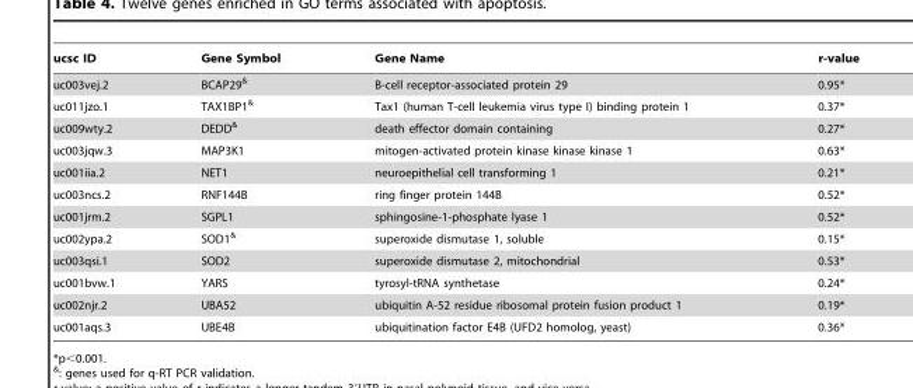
<table><thead><tr><td>ucsc ID</td><td>Gene Symbol</td><td>Gene Name</td><td>r-value</td></tr></thead><tbody><tr><td>uc003vej.2</td><td>BCAP29&amp;</td><td>B-cell receptor-associated protein 29</td><td>0.95*</td></tr><tr><td>uc011jzo.1</td><td>TAX1BP1&amp;</td><td>Tax1 (human T-cell leukemia virus type I) binding protein 1</td><td>0.37*</td></tr><tr><td>uc009wty.2</td><td>DEDD&amp;</td><td>death effector domain containing</td><td>0.27*</td></tr><tr><td>uc003jqw.3</td><td>MAP3K1</td><td>mitogen-activated protein kinase kinase kinase 1</td><td>0.63*</td></tr><tr><td>uc001iia.2</td><td>NET1</td><td>neuroepithelial cell transforming 1</td><td>0.21*</td></tr><tr><td>uc003ncs.2</td><td>RNF144B</td><td>ring finger protein 144B</td><td>0.52*</td></tr><tr><td>uc001jrm.2</td><td>SGPL1</td><td>sphingosine-1-phosphate lyase 1</td><td>0.52*</td></tr><tr><td>uc002ypa.2</td><td>SOD1&amp;</td><td>superoxide dismutase 1, soluble</td><td>0.15*</td></tr><tr><td>uc003qsi.1</td><td>SOD2</td><td>superoxide dismutase 2, mitochondrial</td><td>0.53*</td></tr><tr><td>uc001bvw.1</td><td>YARS</td><td>tyrosyl-tRNA synthetase</td><td>0.24*</td></tr><tr><td>uc002njr.2</td><td>UBA52</td><td>ubiquitin A-52 residue ribosomal protein fusion product 1</td><td>0.19*</td></tr><tr><td>uc001aqs.3</td><td>UBE4B</td><td>ubiquitination factor E4B (UFD2 homolog, yeast)</td><td>0.36*</td></tr></tbody></table>